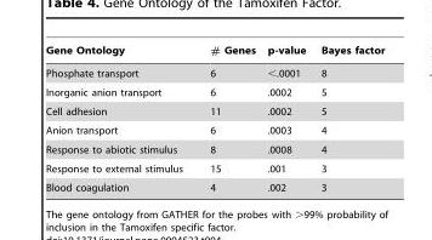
<table><thead><tr><td>Gene Ontology</td><td># Genes</td><td>p-value</td><td>Bayes factor</td></tr></thead><tbody><tr><td>Phosphate transport</td><td>6</td><td>&lt;.0001</td><td>8</td></tr><tr><td>Inorganic anion transport</td><td>6</td><td>.0002</td><td>5</td></tr><tr><td>Cell adhesion</td><td>11</td><td>.0002</td><td>5</td></tr><tr><td>Anion transport</td><td>6</td><td>.0003</td><td>4</td></tr><tr><td>Response to abiotic stimulus</td><td>8</td><td>.0008</td><td>4</td></tr><tr><td>Response to external stimulus</td><td>15</td><td>.001</td><td>3</td></tr><tr><td>Blood coagulation</td><td>4</td><td>.002</td><td>3</td></tr></tbody></table>